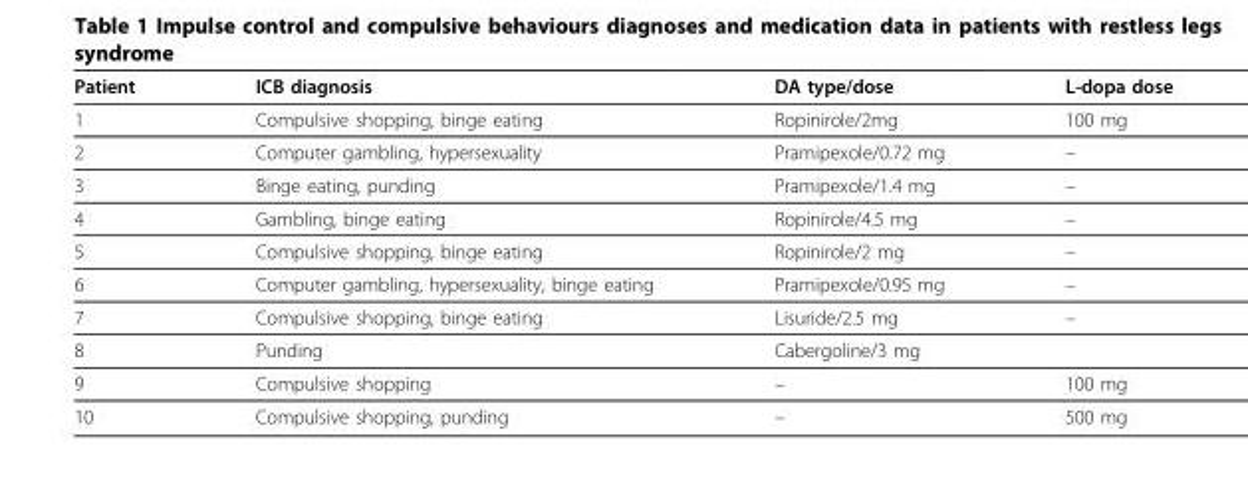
<table><thead><tr><td>Patient</td><td>ICB diagnosis</td><td>DA type/dose</td><td>L-dopa dose</td></tr></thead><tbody><tr><td>1</td><td>Compulsive shopping, binge eating</td><td>Ropinirole/2mg</td><td>100 mg</td></tr><tr><td>2</td><td>Computer gambling, hypersexuality</td><td>Pramipexole/0.72 mg</td><td>–</td></tr><tr><td>3</td><td>Binge eating, punding</td><td>Pramipexole/1.4 mg</td><td>–</td></tr><tr><td>4</td><td>Gambling, binge eating</td><td>Ropinirole/4.5 mg</td><td>–</td></tr><tr><td>5</td><td>Compulsive shopping, binge eating</td><td>Ropinirole/2 mg</td><td>–</td></tr><tr><td>6</td><td>Computer gambling, hypersexuality, binge eating</td><td>Pramipexole/0.95 mg</td><td>–</td></tr><tr><td>7</td><td>Compulsive shopping, binge eating</td><td>Lisuride/2.5 mg</td><td>–</td></tr><tr><td>8</td><td>Punding</td><td>Cabergoline/3 mg</td><td></td></tr><tr><td>9</td><td>Compulsive shopping</td><td>–</td><td>100 mg</td></tr><tr><td>10</td><td>Compulsive shopping, punding</td><td>–</td><td>500 mg</td></tr></tbody></table>